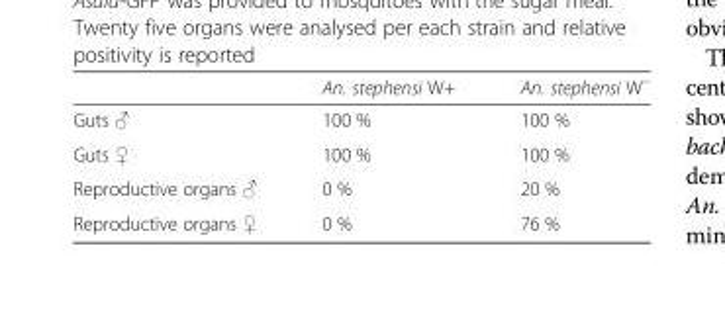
<table><thead><tr><td></td><td>An. stephensi W+</td><td>An. stephensi W<sup>−</sup></td></tr></thead><tbody><tr><td>Guts ♂</td><td>100 %</td><td>100 %</td></tr><tr><td>Guts ♀</td><td>100 %</td><td>100 %</td></tr><tr><td>Reproductive organs ♂</td><td>0 %</td><td>20 %</td></tr><tr><td>Reproductive organs ♀</td><td>0 %</td><td>76 %</td></tr></tbody></table>